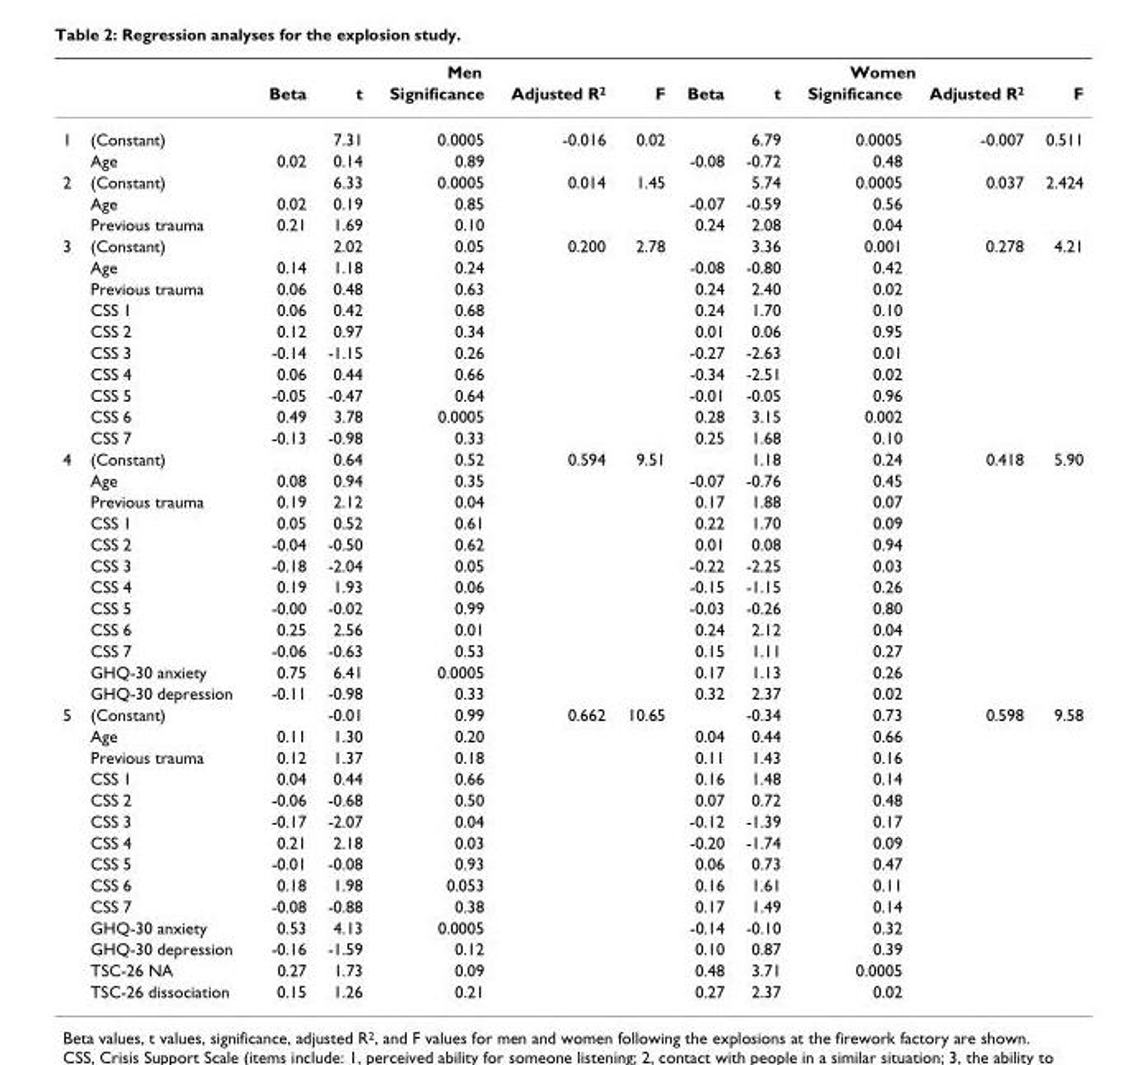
<table><thead><tr><td rowspan="2"></td><td rowspan="2"></td><td colspan="5">Men</td><td colspan="5">Women</td></tr><tr><td>Beta</td><td>t</td><td>Significance</td><td>Adjusted R<sup>2</sup></td><td>F</td><td>Beta</td><td>t</td><td>Significance</td><td>Adjusted R<sup>2</sup></td><td>F</td></tr></thead><tbody><tr><td rowspan="2">1</td><td>(Constant)</td><td></td><td>7.31</td><td>0.0005</td><td>-0.016</td><td>0.02</td><td></td><td>6.79</td><td>0.0005</td><td>-0.007</td><td>0.511</td></tr><tr><td>Age</td><td>0.02</td><td>0.14</td><td>0.89</td><td></td><td></td><td>-0.08</td><td>-0.72</td><td>0.48</td><td></td><td></td></tr><tr><td rowspan="3">2</td><td>(Constant)</td><td></td><td>6.33</td><td>0.0005</td><td>0.014</td><td>1.45</td><td></td><td>5.74</td><td>0.0005</td><td>0.037</td><td>2.424</td></tr><tr><td>Age</td><td>0.02</td><td>0.19</td><td>0.85</td><td></td><td></td><td>-0.07</td><td>-0.59</td><td>0.56</td><td></td><td></td></tr><tr><td>Previous trauma</td><td>0.21</td><td>1.69</td><td>0.10</td><td></td><td></td><td>0.24</td><td>2.08</td><td>0.04</td><td></td><td></td></tr><tr><td rowspan="10">3</td><td>(Constant)</td><td></td><td>2.02</td><td>0.05</td><td>0.200</td><td>2.78</td><td></td><td>3.36</td><td>0.001</td><td>0.278</td><td>4.21</td></tr><tr><td>Age</td><td>0.14</td><td>1.18</td><td>0.24</td><td></td><td></td><td>-0.08</td><td>-0.80</td><td>0.42</td><td></td><td></td></tr><tr><td>Previous trauma</td><td>0.06</td><td>0.48</td><td>0.63</td><td></td><td></td><td>0.24</td><td>2.40</td><td>0.02</td><td></td><td></td></tr><tr><td>CSS 1</td><td>0.06</td><td>0.42</td><td>0.68</td><td></td><td></td><td>0.24</td><td>1.70</td><td>0.10</td><td></td><td></td></tr><tr><td>CSS 2</td><td>0.12</td><td>0.97</td><td>0.34</td><td></td><td></td><td>0.01</td><td>0.06</td><td>0.95</td><td></td><td></td></tr><tr><td>CSS 3</td><td>-0.14</td><td>-1.15</td><td>0.26</td><td></td><td></td><td>-0.27</td><td>-2.63</td><td>0.01</td><td></td><td></td></tr><tr><td>CSS 4</td><td>0.06</td><td>0.44</td><td>0.66</td><td></td><td></td><td>-0.34</td><td>-2.51</td><td>0.02</td><td></td><td></td></tr><tr><td>CSS 5</td><td>-0.05</td><td>-0.47</td><td>0.64</td><td></td><td></td><td>-0.01</td><td>-0.05</td><td>0.96</td><td></td><td></td></tr><tr><td>CSS 6</td><td>0.49</td><td>3.78</td><td>0.0005</td><td></td><td></td><td>0.28</td><td>3.15</td><td>0.002</td><td></td><td></td></tr><tr><td>CSS 7</td><td>-0.13</td><td>-0.98</td><td>0.33</td><td></td><td></td><td>0.25</td><td>1.68</td><td>0.10</td><td></td><td></td></tr><tr><td rowspan="12">4</td><td>(Constant)</td><td></td><td>0.64</td><td>0.52</td><td>0.594</td><td>9.51</td><td></td><td>1.18</td><td>0.24</td><td>0.418</td><td>5.90</td></tr><tr><td>Age</td><td>0.08</td><td>0.94</td><td>0.35</td><td></td><td></td><td>-0.07</td><td>-0.76</td><td>0.45</td><td></td><td></td></tr><tr><td>Previous trauma</td><td>0.19</td><td>2.12</td><td>0.04</td><td></td><td></td><td>0.17</td><td>1.88</td><td>0.07</td><td></td><td></td></tr><tr><td>CSS 1</td><td>0.05</td><td>0.52</td><td>0.61</td><td></td><td></td><td>0.22</td><td>1.70</td><td>0.09</td><td></td><td></td></tr><tr><td>CSS 2</td><td>-0.04</td><td>-0.50</td><td>0.62</td><td></td><td></td><td>0.01</td><td>0.08</td><td>0.94</td><td></td><td></td></tr><tr><td>CSS 3</td><td>-0.18</td><td>-2.04</td><td>0.05</td><td></td><td></td><td>-0.22</td><td>-2.25</td><td>0.03</td><td></td><td></td></tr><tr><td>CSS 4</td><td>0.19</td><td>1.93</td><td>0.06</td><td></td><td></td><td>-0.15</td><td>-1.15</td><td>0.26</td><td></td><td></td></tr><tr><td>CSS 5</td><td>-0.00</td><td>-0.02</td><td>0.99</td><td></td><td></td><td>-0.03</td><td>-0.26</td><td>0.80</td><td></td><td></td></tr><tr><td>CSS 6</td><td>0.25</td><td>2.56</td><td>0.01</td><td></td><td></td><td>0.24</td><td>2.12</td><td>0.04</td><td></td><td></td></tr><tr><td>CSS 7</td><td>-0.06</td><td>-0.63</td><td>0.53</td><td></td><td></td><td>0.15</td><td>1.11</td><td>0.27</td><td></td><td></td></tr><tr><td>GHQ-30 anxiety</td><td>0.75</td><td>6.41</td><td>0.0005</td><td></td><td></td><td>0.17</td><td>1.13</td><td>0.26</td><td></td><td></td></tr><tr><td>GHQ-30 depression</td><td>-0.11</td><td>-0.98</td><td>0.33</td><td></td><td></td><td>0.32</td><td>2.37</td><td>0.02</td><td></td><td></td></tr><tr><td rowspan="14">5</td><td>(Constant)</td><td></td><td>-0.01</td><td>0.99</td><td>0.662</td><td>10.65</td><td></td><td>-0.34</td><td>0.73</td><td>0.598</td><td>9.58</td></tr><tr><td>Age</td><td>0.11</td><td>1.30</td><td>0.20</td><td></td><td></td><td>0.04</td><td>0.44</td><td>0.66</td><td></td><td></td></tr><tr><td>Previous trauma</td><td>0.12</td><td>1.37</td><td>0.18</td><td></td><td></td><td>0.11</td><td>1.43</td><td>0.16</td><td></td><td></td></tr><tr><td>CSS 1</td><td>0.04</td><td>0.44</td><td>0.66</td><td></td><td></td><td>0.16</td><td>1.48</td><td>0.14</td><td></td><td></td></tr><tr><td>CSS 2</td><td>-0.06</td><td>-0.68</td><td>0.50</td><td></td><td></td><td>0.07</td><td>0.72</td><td>0.48</td><td></td><td></td></tr><tr><td>CSS 3</td><td>-0.17</td><td>-2.07</td><td>0.04</td><td></td><td></td><td>-0.12</td><td>-1.39</td><td>0.17</td><td></td><td></td></tr><tr><td>CSS 4</td><td>0.21</td><td>2.18</td><td>0.03</td><td></td><td></td><td>-0.20</td><td>-1.74</td><td>0.09</td><td></td><td></td></tr><tr><td>CSS 5</td><td>-0.01</td><td>-0.08</td><td>0.93</td><td></td><td></td><td>0.06</td><td>0.73</td><td>0.47</td><td></td><td></td></tr><tr><td>CSS 6</td><td>0.18</td><td>1.98</td><td>0.053</td><td></td><td></td><td>0.16</td><td>1.61</td><td>0.11</td><td></td><td></td></tr><tr><td>CSS 7</td><td>-0.08</td><td>-0.88</td><td>0.38</td><td></td><td></td><td>0.17</td><td>1.49</td><td>0.14</td><td></td><td></td></tr><tr><td>GHQ-30 anxiety</td><td>0.53</td><td>4.13</td><td>0.0005</td><td></td><td></td><td>-0.14</td><td>-0.10</td><td>0.32</td><td></td><td></td></tr><tr><td>GHQ-30 depression</td><td>-0.16</td><td>-1.59</td><td>0.12</td><td></td><td></td><td>0.10</td><td>0.87</td><td>0.39</td><td></td><td></td></tr><tr><td>TSC-26 NA</td><td>0.27</td><td>1.73</td><td>0.09</td><td></td><td></td><td>0.48</td><td>3.71</td><td>0.0005</td><td></td><td></td></tr><tr><td>TSC-26 dissociation</td><td>0.15</td><td>1.26</td><td>0.21</td><td></td><td></td><td>0.27</td><td>2.37</td><td>0.02</td><td></td><td></td></tr></tbody></table>